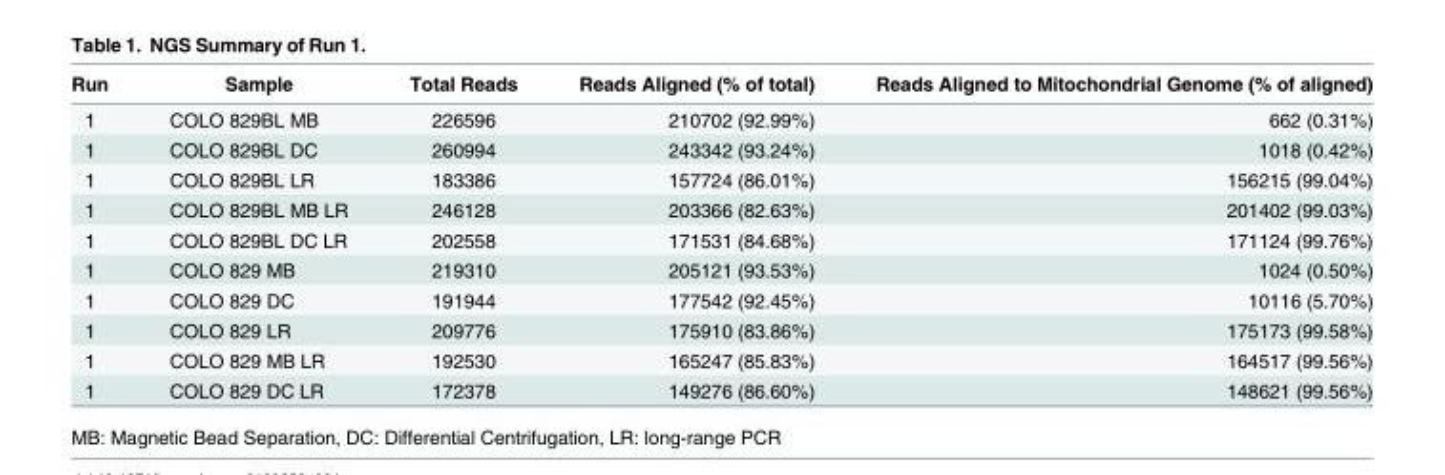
<table><thead><tr><td>Run</td><td>Sample</td><td>Total Reads</td><td>Reads Aligned (% of total)</td><td>Reads Aligned to Mitochondrial Genome (% of aligned)</td></tr></thead><tbody><tr><td>1</td><td>COLO 829BL MB</td><td>226596</td><td>210702 (92.99%)</td><td>662 (0.31%)</td></tr><tr><td>1</td><td>COLO 829BL DC</td><td>260994</td><td>243342 (93.24%)</td><td>1018 (0.42%)</td></tr><tr><td>1</td><td>COLO 829BL LR</td><td>183386</td><td>157724 (86.01%)</td><td>156215 (99.04%)</td></tr><tr><td>1</td><td>COLO 829BL MB LR</td><td>246128</td><td>203366 (82.63%)</td><td>201402 (99.03%)</td></tr><tr><td>1</td><td>COLO 829BL DC LR</td><td>202558</td><td>171531 (84.68%)</td><td>171124 (99.76%)</td></tr><tr><td>1</td><td>COLO 829 MB</td><td>219310</td><td>205121 (93.53%)</td><td>1024 (0.50%)</td></tr><tr><td>1</td><td>COLO 829 DC</td><td>191944</td><td>177542 (92.45%)</td><td>10116 (5.70%)</td></tr><tr><td>1</td><td>COLO 829 LR</td><td>209776</td><td>175910 (83.86%)</td><td>175173 (99.58%)</td></tr><tr><td>1</td><td>COLO 829 MB LR</td><td>192530</td><td>165247 (85.83%)</td><td>164517 (99.56%)</td></tr><tr><td>1</td><td>COLO 829 DC LR</td><td>172378</td><td>149276 (86.60%)</td><td>148621 (99.56%)</td></tr></tbody></table>